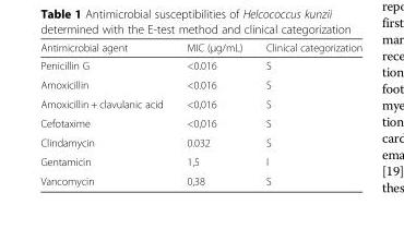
<table><thead><tr><td>Antimicrobial agent</td><td>MIC (μg/mL)</td><td>Clinical categorization</td></tr></thead><tbody><tr><td>Penicillin G</td><td>&lt;0.016</td><td>S</td></tr><tr><td>Amoxicillin</td><td>&lt;0.016</td><td>S</td></tr><tr><td>Amoxicillin + clavulanic acid</td><td>&lt;0,016</td><td>S</td></tr><tr><td>Cefotaxime</td><td>&lt;0,016</td><td>S</td></tr><tr><td>Clindamycin</td><td>0.032</td><td>S</td></tr><tr><td>Gentamicin</td><td>1,5</td><td>I</td></tr><tr><td>Vancomycin</td><td>0,38</td><td>S</td></tr></tbody></table>